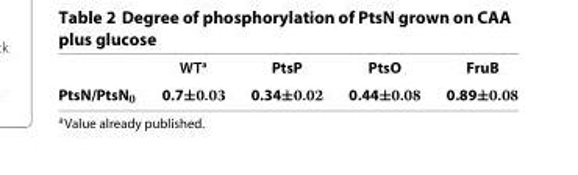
<table><thead><tr><td rowspan="2">PtsN/PtsN<sub>0</sub></td><td rowspan="2">WT<sup>a</sup> 0.7±0.03</td><td rowspan="2">PtsP 0.34±0.02</td><td rowspan="2">PtsO 0.44±0.08</td><td rowspan="2">FruB 0.89±0.08</td></tr><tr></tr></thead><tbody></tbody></table>